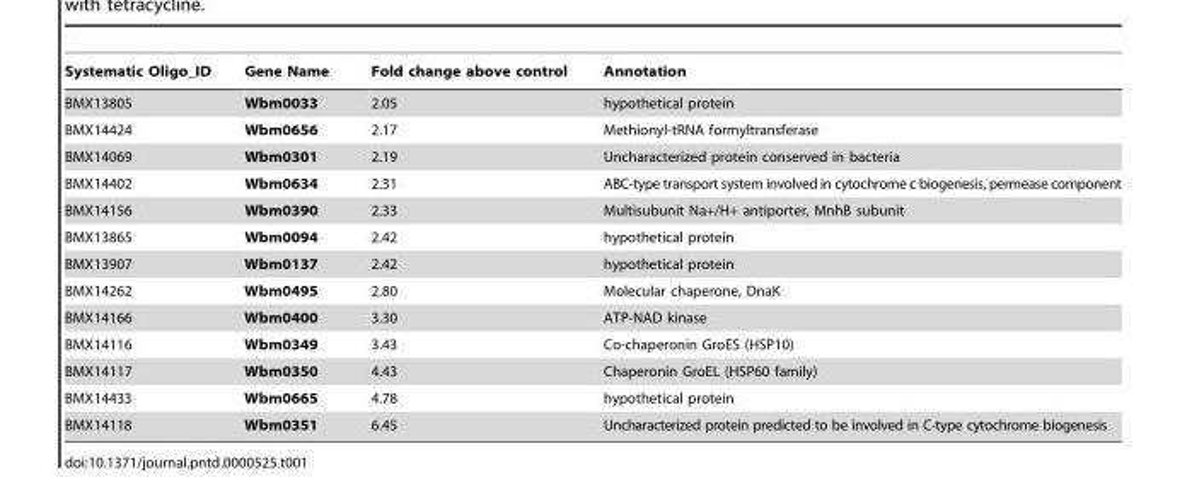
<table><thead><tr><td>Systematic Oligo_ID</td><td>Gene Name</td><td>Fold change above control</td><td>Annotation</td></tr></thead><tbody><tr><td>BMX13805</td><td>Wbm0033</td><td>2.05</td><td>hypothetical protein</td></tr><tr><td>BMX14424</td><td>Wbm0656</td><td>2.17</td><td>Methionyl-tRNA formyltransferase</td></tr><tr><td>BMX14069</td><td>Wbm0301</td><td>2.19</td><td>Uncharacterized protein conserved in bacteria</td></tr><tr><td>BMX14402</td><td>Wbm0634</td><td>2.31</td><td>ABC-type transport system involved in cytochrome c biogenesis, permease component</td></tr><tr><td>BMX14156</td><td>Wbm0390</td><td>2.33</td><td>Multisubunit Na+/H+ antiporter, MnhB subunit</td></tr><tr><td>BMX13865</td><td>Wbm0094</td><td>2.42</td><td>hypothetical protein</td></tr><tr><td>BMX13907</td><td>Wbm0137</td><td>2.42</td><td>hypothetical protein</td></tr><tr><td>BMX14262</td><td>Wbm0495</td><td>2.80</td><td>Molecular chaperone, DnaK</td></tr><tr><td>BMX14166</td><td>Wbm0400</td><td>3.30</td><td>ATP-NAD kinase</td></tr><tr><td>BMX14116</td><td>Wbm0349</td><td>3.43</td><td>Co-chaperonin GroES (HSP10)</td></tr><tr><td>BMX14117</td><td>Wbm0350</td><td>4.43</td><td>Chaperonin GroEL (HSP60 family)</td></tr><tr><td>BMX14433</td><td>Wbm0665</td><td>4.78</td><td>hypothetical protein</td></tr><tr><td>BMX14118</td><td>Wbm0351</td><td>6.45</td><td>Uncharacterized protein predicted to be involved in C-type cytochrome biogenesis</td></tr></tbody></table>